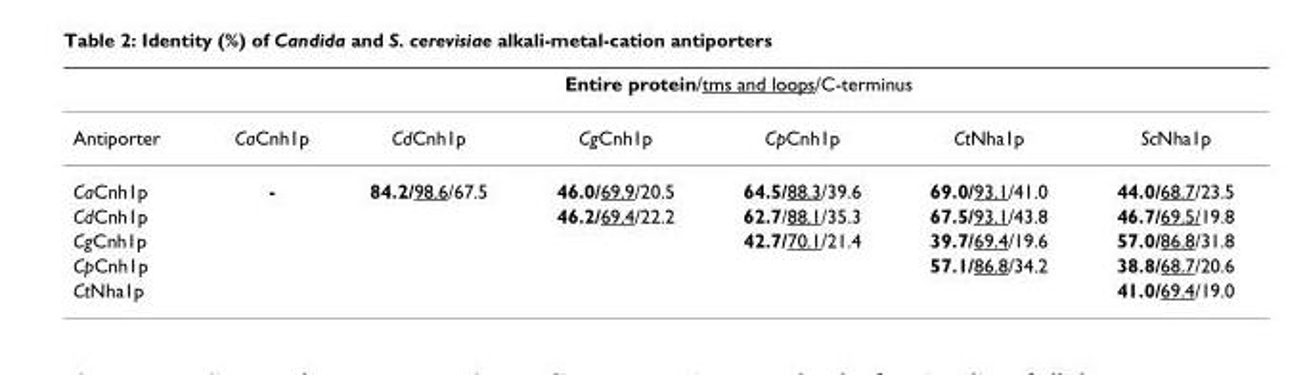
<table><thead><tr><td rowspan="2">Antiporter</td><td colspan="6">Entire protein/tms and loops/C-terminus</td></tr><tr><td>CaCnh1p</td><td>CdCnh1p</td><td>CgCnh1p</td><td>CpCnh1p</td><td>CtNha1p</td><td>ScNha1p</td></tr></thead><tbody><tr><td>CaCnh1p</td><td>-</td><td>84.2/98.6/67.5</td><td>46.0/69.9/20.5</td><td>64.5/88.3/39.6</td><td>69.0/93.1/41.0</td><td>44.0/68.7/23.5</td></tr><tr><td>CdCnh1p</td><td></td><td></td><td>46.2/69.4/22.2</td><td>62.7/88.1/35.3</td><td>67.5/93.1/43.8</td><td>46.7/69.5/19.8</td></tr><tr><td>CgCnh1p</td><td></td><td></td><td></td><td>42.7/70.1/21.4</td><td>39.7/69.4/19.6</td><td>57.0/86.8/31.8</td></tr><tr><td>CpCnh1p</td><td></td><td></td><td></td><td></td><td>57.1/86.8/34.2</td><td>38.8/68.7/20.6</td></tr><tr><td>CtNha1p</td><td></td><td></td><td></td><td></td><td></td><td>41.0/69.4/19.0</td></tr></tbody></table>